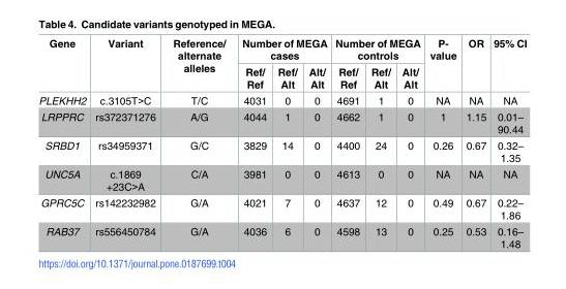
<table><thead><tr><td rowspan="2">Gene</td><td rowspan="2">Variant</td><td rowspan="2">Reference/ alternate alleles</td><td colspan="3">Number of MEGA cases</td><td colspan="3">Number of MEGA controls</td><td rowspan="2">P- value</td><td rowspan="2">OR</td><td rowspan="2">95% CI</td></tr><tr><td>Ref/ Ref</td><td>Ref/ Alt</td><td>Alt/ Alt</td><td>Ref/ Ref</td><td>Ref/ Alt</td><td>Alt/ Alt</td></tr></thead><tbody><tr><td>PLEKHH2</td><td>c.3105T&gt;C</td><td>T/C</td><td>4031</td><td>0</td><td>0</td><td>4691</td><td>1</td><td>0</td><td>NA</td><td>NA</td><td>NA</td></tr><tr><td>LRPPRC</td><td>rs372371276</td><td>A/G</td><td>4044</td><td>1</td><td>0</td><td>4662</td><td>1</td><td>0</td><td>1</td><td>1.15</td><td>0.01– 90.44</td></tr><tr><td>SRBD1</td><td>rs34959371</td><td>G/C</td><td>3829</td><td>14</td><td>0</td><td>4400</td><td>24</td><td>0</td><td>0.26</td><td>0.67</td><td>0.32– 1.35</td></tr><tr><td>UNC5A</td><td>c.1869 +23C&gt;A</td><td>C/A</td><td>3981</td><td>0</td><td>0</td><td>4613</td><td>0</td><td>0</td><td>NA</td><td>NA</td><td>NA</td></tr><tr><td>GPRC5C</td><td>rs142232982</td><td>G/A</td><td>4021</td><td>7</td><td>0</td><td>4637</td><td>12</td><td>0</td><td>0.49</td><td>0.67</td><td>0.22– 1.86</td></tr><tr><td>RAB37</td><td>rs556450784</td><td>G/A</td><td>4036</td><td>6</td><td>0</td><td>4598</td><td>13</td><td>0</td><td>0.25</td><td>0.53</td><td>0.16– 1.48</td></tr></tbody></table>